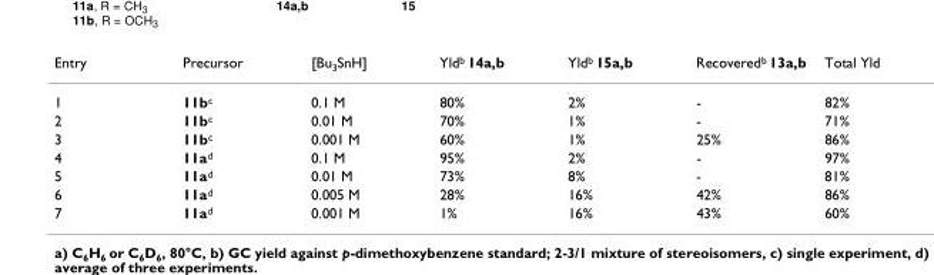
<table><thead><tr><td>Entry</td><td>Precursor</td><td>[Bu<sub>3</sub>SnH]</td><td>Yld<sup>b</sup> 14a,b</td><td>Yld<sup>b</sup> 15a,b</td><td>Recovered<sup>b</sup> 13a,b</td><td>Total Yld</td></tr></thead><tbody><tr><td>1</td><td>11b<sup>c</sup></td><td>0.1 M</td><td>80%</td><td>2%</td><td>-</td><td>82%</td></tr><tr><td>2</td><td>11b<sup>c</sup></td><td>0.01 M</td><td>70%</td><td>1%</td><td>-</td><td>71%</td></tr><tr><td>3</td><td>11b<sup>c</sup></td><td>0.001 M</td><td>60%</td><td>1%</td><td>25%</td><td>86%</td></tr><tr><td>4</td><td>11a<sup>d</sup></td><td>0.1 M</td><td>95%</td><td>2%</td><td>-</td><td>97%</td></tr><tr><td>5</td><td>11a<sup>d</sup></td><td>0.01 M</td><td>73%</td><td>8%</td><td>-</td><td>81%</td></tr><tr><td>6</td><td>11a<sup>d</sup></td><td>0.005 M</td><td>28%</td><td>16%</td><td>42%</td><td>86%</td></tr><tr><td>7</td><td>11a<sup>d</sup></td><td>0.001 M</td><td>1%</td><td>16%</td><td>43%</td><td>60%</td></tr></tbody></table>